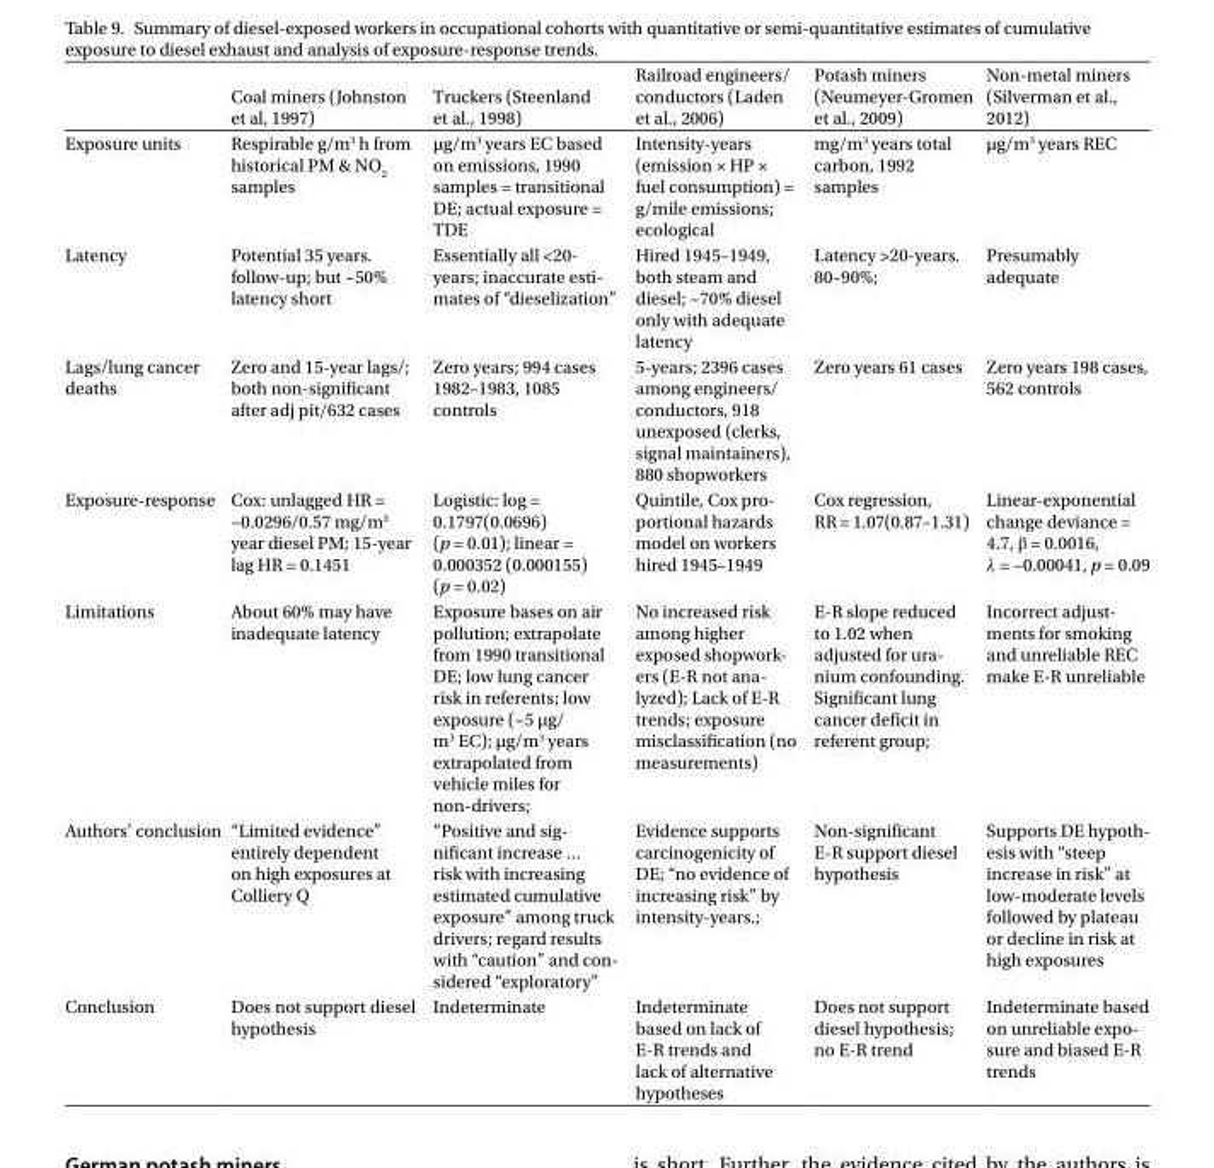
<table><thead><tr><td></td><td>Coal miners (Johnston et al, 1997)</td><td>Truckers (Steenland et al., 1998)</td><td>Railroad engineers/ conductors (Laden et al., 2006)</td><td>Potash miners (Neumeyer-Gromen et al., 2009)</td><td>Non-metal miners (Silverman et al., 2012)</td></tr></thead><tbody><tr><td>Exposure units</td><td>Respirable g/m<sup>3</sup> h from historical PM &amp; NO<sub>2</sub> samples</td><td>µg/m<sup>3</sup> years EC based on emissions, 1990 samples = transitional DE; actual exposure = TDE</td><td>Intensity-years (emission × HP × fuel consumption) = g/mile emissions; ecological</td><td>mg/m<sup>3</sup> years total carbon, 1992 samples</td><td>µg/m<sup>3</sup> years REC</td></tr><tr><td>Latency</td><td>Potential 35 years. follow-up; but ~50% latency short</td><td>Essentially all &lt;20- years; inaccurate esti- mates of “dieselization”</td><td>Hired 1945–1949, both steam and diesel; ~70% diesel only with adequate latency</td><td>Latency &gt;20-years. 80–90%;</td><td>Presumably adequate</td></tr><tr><td>Lags/lung cancer deaths</td><td>Zero and 15-year lags/; both non-significant after adj pit/632 cases</td><td>Zero years; 994 cases 1982–1983, 1085 controls</td><td>5-years; 2396 cases among engineers/ conductors, 918 unexposed (clerks, signal maintainers), 880 shopworkers</td><td>Zero years 61 cases</td><td>Zero years 198 cases, 562 controls</td></tr><tr><td>Exposure-response</td><td>Cox: unlagged HR = −0.0296/0.57 mg/m<sup>3</sup> year diesel PM; 15-year lag HR = 0.1451</td><td>Logistic: log = 0.1797(0.0696) (p = 0.01); linear = 0.000352 (0.000155) (p = 0.02)</td><td>Quintile, Cox pro- portional hazards model on workers hired 1945–1949</td><td>Cox regression, RR = 1.07(0.87–1.31)</td><td>Linear-exponential change deviance = 4.7, β = 0.0016, λ = −0.00041, p = 0.09</td></tr><tr><td>Limitations</td><td>About 60% may have inadequate latency</td><td>Exposure bases on air pollution; extrapolate from 1990 transitional DE; low lung cancer risk in referents; low exposure (~5 µg/ m3 EC); µg/m3 years extrapolated from vehicle miles for non-drivers;</td><td>No increased risk among higher exposed shopwork- ers (E-R not ana- lyzed); Lack of E-R trends; exposure misclassification (no measurements)</td><td>E-R slope reduced to 1.02 when adjusted for ura- nium confounding. Significant lung cancer deficit in referent group;</td><td>Incorrect adjust- ments for smoking and unreliable REC make E-R unreliable</td></tr><tr><td>Authors’ conclusion</td><td>“Limited evidence” entirely dependent on high exposures at Colliery Q</td><td>“Positive and sig- nificant increase … risk with increasing estimated cumulative exposure” among truck drivers; regard results with “caution” and con- sidered “exploratory”</td><td>Evidence supports carcinogenicity of DE; “no evidence of increasing risk” by intensity-years.;</td><td>Non-significant E-R support diesel hypothesis</td><td>Supports DE hypoth- esis with “steep increase in risk” at low-moderate levels followed by plateau or decline in risk at high exposures</td></tr><tr><td>Conclusion</td><td>Does not support diesel hypothesis</td><td>Indeterminate</td><td>Indeterminate based on lack of E-R trends and lack of alternative hypotheses</td><td>Does not support diesel hypothesis; no E-R trend</td><td>Indeterminate based on unreliable expo- sure and biased E-R trends</td></tr></tbody></table>